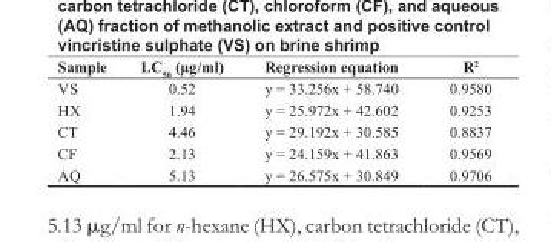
<table><thead><tr><td>Sample</td><td>LC<sub>50</sub> (µg/ml)</td><td>Regression equation</td><td>R<sup>2</sup></td></tr></thead><tbody><tr><td>VS</td><td>0.52</td><td>y = 33.256x + 58.740</td><td>0.9580</td></tr><tr><td>HX</td><td>1.94</td><td>y = 25.972x + 42.602</td><td>0.9253</td></tr><tr><td>CT</td><td>4.46</td><td>y = 29.192x + 30.585</td><td>0.8837</td></tr><tr><td>CF</td><td>2.13</td><td>y = 24.159x + 41.863</td><td>0.9569</td></tr><tr><td>AQ</td><td>5.13</td><td>y = 26.575x + 30.849</td><td>0.9706</td></tr></tbody></table>